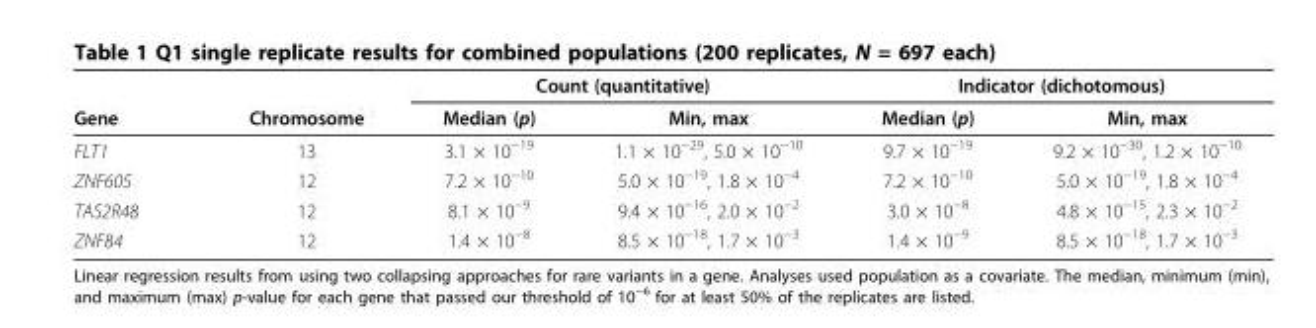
<table><thead><tr><td rowspan="2">Gene</td><td rowspan="2">Chromosome</td><td colspan="2">Count (quantitative)</td><td colspan="2">Indicator (dichotomous)</td></tr><tr><td>Median (p)</td><td>Min, max</td><td>Median (p)</td><td>Min, max</td></tr></thead><tbody><tr><td>FLT1</td><td>13</td><td>3.1 × 10<sup>−19</sup></td><td>1.1 × 10<sup>−29</sup>, 5.0 × 10<sup>−10</sup></td><td>9.7 × 10<sup>−19</sup></td><td>9.2 × 10<sup>−30</sup>, 1.2 × 10<sup>−10</sup></td></tr><tr><td>ZNF605</td><td>12</td><td>7.2 × 10<sup>−10</sup></td><td>5.0 × 10<sup>−19</sup>, 1.8 × 10<sup>−4</sup></td><td>7.2 × 10<sup>−10</sup></td><td>5.0 × 10<sup>−19</sup>, 1.8 × 10<sup>−4</sup></td></tr><tr><td>TAS2R48</td><td>12</td><td>8.1 × 10<sup>−9</sup></td><td>9.4 × 10<sup>−16</sup>, 2.0 × 10<sup>−2</sup></td><td>3.0 × 10<sup>−8</sup></td><td>4.8 × 10<sup>−15</sup>, 2.3 × 10<sup>−2</sup></td></tr><tr><td>ZNF84</td><td>12</td><td>1.4 × 10<sup>−8</sup></td><td>8.5 × 10<sup>−18</sup>, 1.7 × 10<sup>−3</sup></td><td>1.4 × 10<sup>−9</sup></td><td>8.5 × 10<sup>−18</sup>, 1.7 × 10<sup>−3</sup></td></tr></tbody></table>